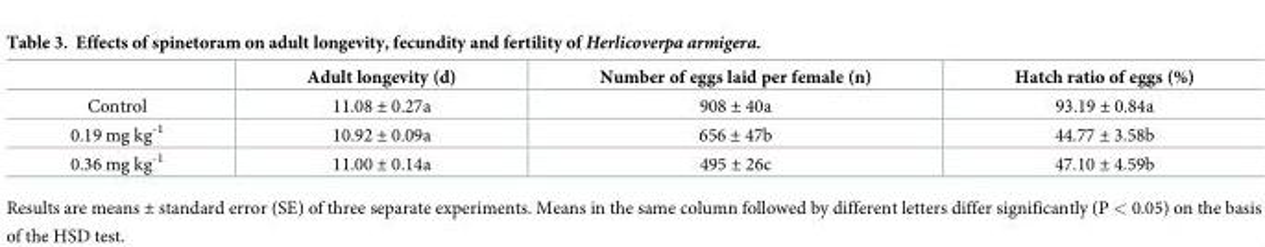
<table><thead><tr><td></td><td>Adult longevity (d)</td><td>Number of eggs laid per female (n)</td><td>Hatch ratio of eggs (%)</td></tr></thead><tbody><tr><td>Control</td><td>11.08 ± 0.27a</td><td>908 ± 40a</td><td>93.19 ± 0.84a</td></tr><tr><td>0.19 mg kg<sup>-1</sup></td><td>10.92 ± 0.09a</td><td>656 ± 47b</td><td>44.77 ± 3.58b</td></tr><tr><td>0.36 mg kg<sup>-1</sup></td><td>11.00 ± 0.14a</td><td>495 ± 26c</td><td>47.10 ± 4.59b</td></tr></tbody></table>